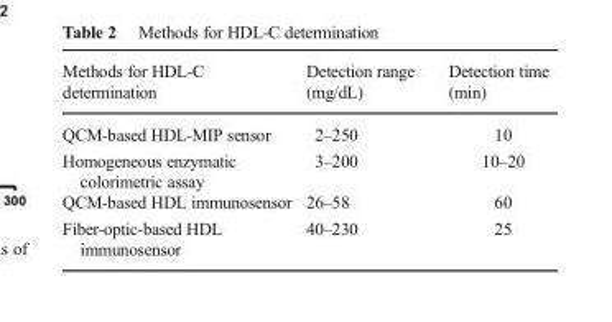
<table><thead><tr><td>Methods for HDL-C determination</td><td>Detection range (mg/dL)</td><td>Detection time (min)</td></tr></thead><tbody><tr><td>QCM-based HDL-MIP sensor</td><td>2–250</td><td>10</td></tr><tr><td>Homogeneous enzymatic colorimetric assay</td><td>3–200</td><td>10–20</td></tr><tr><td>QCM-based HDL immunosensor</td><td>26–58</td><td>60</td></tr><tr><td>Fiber-optic-based HDL immunosensor</td><td>40–230</td><td>25</td></tr></tbody></table>